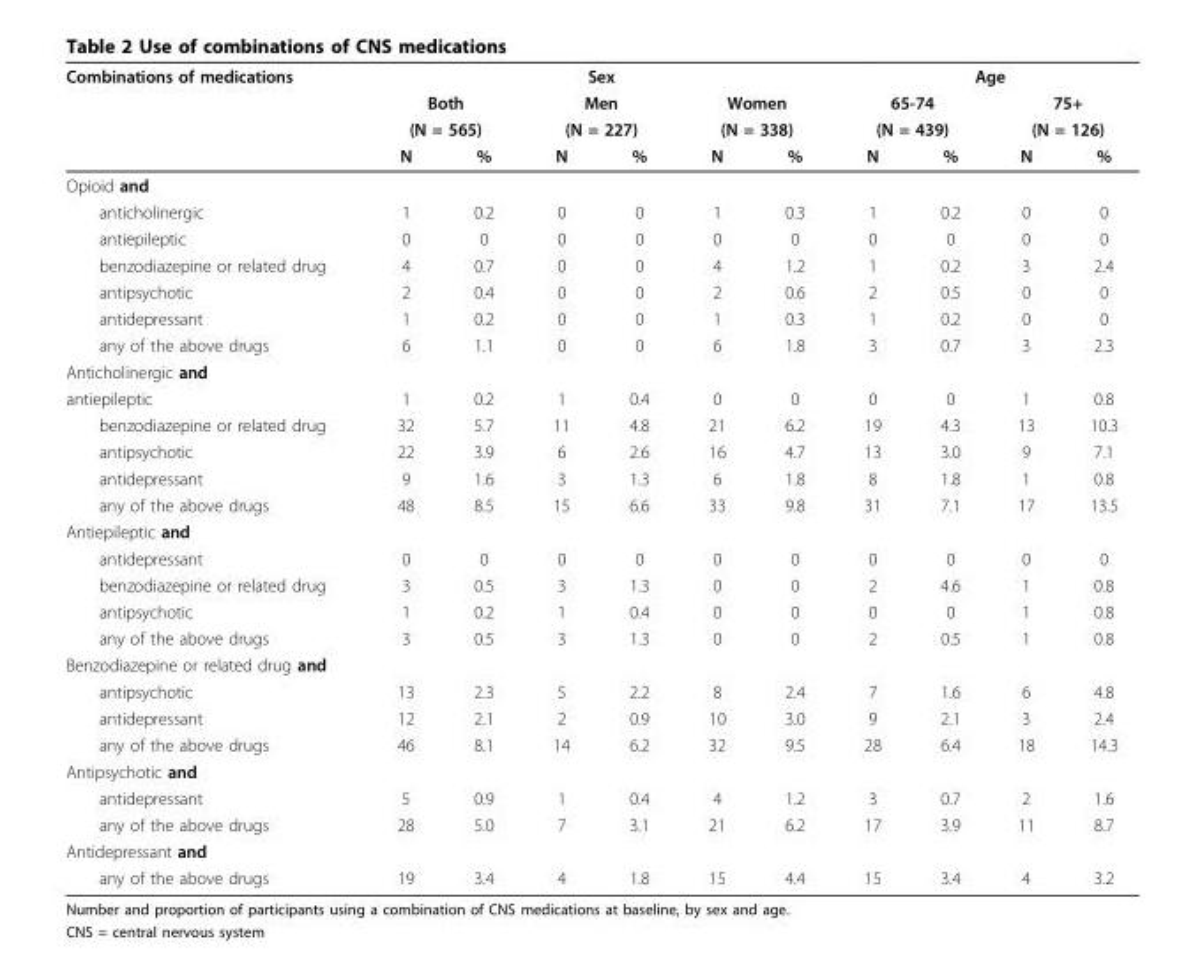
<table><thead><tr><td rowspan="4">Combinations of medications</td><td colspan="6">Sex</td><td colspan="4">Age</td></tr><tr><td rowspan="2" colspan="2">Both (N = 565)</td><td rowspan="2" colspan="2">Men (N = 227)</td><td rowspan="2" colspan="2">Women (N = 338)</td><td rowspan="2" colspan="2">65-74 (N = 439)</td><td rowspan="2" colspan="2">75+ (N = 126)</td></tr><tr></tr><tr><td>N</td><td>%</td><td>N</td><td>%</td><td>N</td><td>%</td><td>N</td><td>%</td><td>N</td><td>%</td></tr></thead><tbody><tr><td colspan="11">Opioid and</td></tr><tr><td>anticholinergic</td><td>1</td><td>0.2</td><td>0</td><td>0</td><td>1</td><td>0.3</td><td>1</td><td>0.2</td><td>0</td><td>0</td></tr><tr><td>antiepileptic</td><td>0</td><td>0</td><td>0</td><td>0</td><td>0</td><td>0</td><td>0</td><td>0</td><td>0</td><td>0</td></tr><tr><td>benzodiazepine or related drug</td><td>4</td><td>0.7</td><td>0</td><td>0</td><td>4</td><td>1.2</td><td>1</td><td>0.2</td><td>3</td><td>2.4</td></tr><tr><td>antipsychotic</td><td>2</td><td>0.4</td><td>0</td><td>0</td><td>2</td><td>0.6</td><td>2</td><td>0.5</td><td>0</td><td>0</td></tr><tr><td>antidepressant</td><td>1</td><td>0.2</td><td>0</td><td>0</td><td>1</td><td>0.3</td><td>1</td><td>0.2</td><td>0</td><td>0</td></tr><tr><td>any of the above drugs</td><td>6</td><td>1.1</td><td>0</td><td>0</td><td>6</td><td>1.8</td><td>3</td><td>0.7</td><td>3</td><td>2.3</td></tr><tr><td colspan="11">Anticholinergic and</td></tr><tr><td>antiepileptic</td><td>1</td><td>0.2</td><td>1</td><td>0.4</td><td>0</td><td>0</td><td>0</td><td>0</td><td>1</td><td>0.8</td></tr><tr><td>benzodiazepine or related drug</td><td>32</td><td>5.7</td><td>11</td><td>4.8</td><td>21</td><td>6.2</td><td>19</td><td>4.3</td><td>13</td><td>10.3</td></tr><tr><td>antipsychotic</td><td>22</td><td>3.9</td><td>6</td><td>2.6</td><td>16</td><td>4.7</td><td>13</td><td>3.0</td><td>9</td><td>7.1</td></tr><tr><td>antidepressant</td><td>9</td><td>1.6</td><td>3</td><td>1.3</td><td>6</td><td>1.8</td><td>8</td><td>1.8</td><td>1</td><td>0.8</td></tr><tr><td>any of the above drugs</td><td>48</td><td>8.5</td><td>15</td><td>6.6</td><td>33</td><td>9.8</td><td>31</td><td>7.1</td><td>17</td><td>13.5</td></tr><tr><td colspan="11">Antiepileptic and</td></tr><tr><td>antidepressant</td><td>0</td><td>0</td><td>0</td><td>0</td><td>0</td><td>0</td><td>0</td><td>0</td><td>0</td><td>0</td></tr><tr><td>benzodiazepine or related drug</td><td>3</td><td>0.5</td><td>3</td><td>1.3</td><td>0</td><td>0</td><td>2</td><td>4.6</td><td>1</td><td>0.8</td></tr><tr><td>antipsychotic</td><td>1</td><td>0.2</td><td>1</td><td>0.4</td><td>0</td><td>0</td><td>0</td><td>0</td><td>1</td><td>0.8</td></tr><tr><td>any of the above drugs</td><td>3</td><td>0.5</td><td>3</td><td>1.3</td><td>0</td><td>0</td><td>2</td><td>0.5</td><td>1</td><td>0.8</td></tr><tr><td colspan="11">Benzodiazepine or related drug and</td></tr><tr><td>antipsychotic</td><td>13</td><td>2.3</td><td>5</td><td>2.2</td><td>8</td><td>2.4</td><td>7</td><td>1.6</td><td>6</td><td>4.8</td></tr><tr><td>antidepressant</td><td>12</td><td>2.1</td><td>2</td><td>0.9</td><td>10</td><td>3.0</td><td>9</td><td>2.1</td><td>3</td><td>2.4</td></tr><tr><td>any of the above drugs</td><td>46</td><td>8.1</td><td>14</td><td>6.2</td><td>32</td><td>9.5</td><td>28</td><td>6.4</td><td>18</td><td>14.3</td></tr><tr><td colspan="11">Antipsychotic and</td></tr><tr><td>antidepressant</td><td>5</td><td>0.9</td><td>1</td><td>0.4</td><td>4</td><td>1.2</td><td>3</td><td>0.7</td><td>2</td><td>1.6</td></tr><tr><td>any of the above drugs</td><td>28</td><td>5.0</td><td>7</td><td>3.1</td><td>21</td><td>6.2</td><td>17</td><td>3.9</td><td>11</td><td>8.7</td></tr><tr><td colspan="11">Antidepressant and</td></tr><tr><td>any of the above drugs</td><td>19</td><td>3.4</td><td>4</td><td>1.8</td><td>15</td><td>4.4</td><td>15</td><td>3.4</td><td>4</td><td>3.2</td></tr></tbody></table>